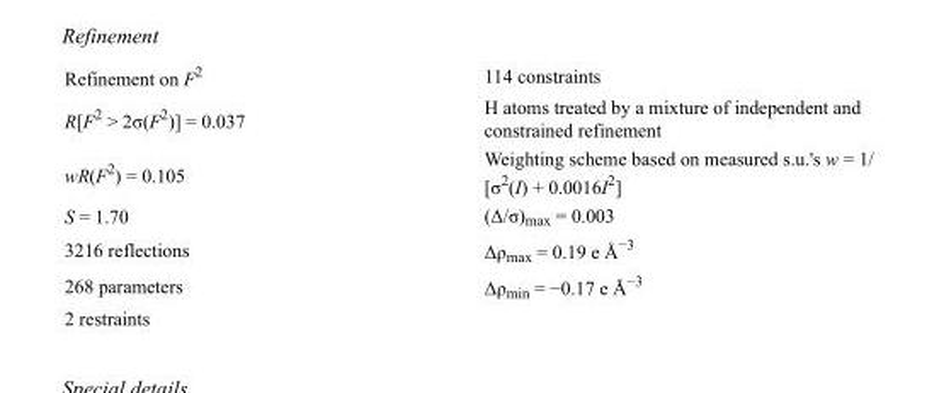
<table><tbody><tr><td>Refinement on F<sup>2</sup></td><td>114 constraints</td></tr><tr><td>R[F<sup>2</sup> &gt; 2σ(F<sup>2</sup>)] = 0.037</td><td>H atoms treated by a mixture of independent and constrained refinement</td></tr><tr><td>wR(F<sup>2</sup>) = 0.105</td><td>Weighting scheme based on measured s.u.&#x27;s w = 1/ [σ<sup>2</sup>(I) + 0.0016I<sup>2</sup>]</td></tr><tr><td>S = 1.70</td><td>(Δ/σ)<sub>max</sub> = 0.003</td></tr><tr><td>3216 reflections</td><td>Δρ<sub>max</sub> = 0.19 e Å<sup>−3</sup></td></tr><tr><td>268 parameters</td><td>Δρ<sub>min</sub> = −0.17 e Å<sup>−3</sup></td></tr><tr><td>2 restraints</td><td></td></tr></tbody></table>